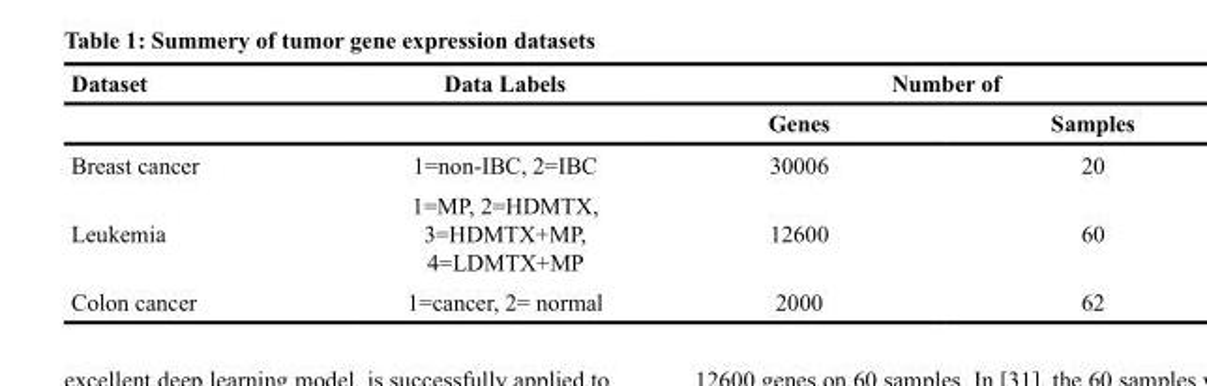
<table><thead><tr><td rowspan="2">Dataset</td><td rowspan="2">Data Labels</td><td colspan="2">Number of</td></tr><tr><td>Genes</td><td>Samples</td></tr></thead><tbody><tr><td>Breast cancer</td><td>1=non-IBC, 2=IBC</td><td>30006</td><td>20</td></tr><tr><td>Leukemia</td><td>1=MP, 2=HDMTX, 3=HDMTX+MP, 4=LDMTX+MP</td><td>12600</td><td>60</td></tr><tr><td>Colon cancer</td><td>1=cancer, 2= normal</td><td>2000</td><td>62</td></tr></tbody></table>